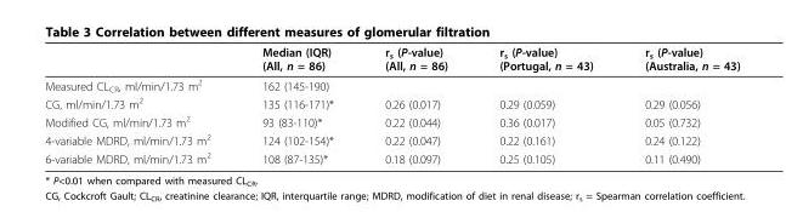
<table><thead><tr><td></td><td>Median (IQR) (All, n = 86)</td><td>r<sub>s</sub> (P-value) (All, n = 86)</td><td>r<sub>s</sub> (P-value) (Portugal, n = 43)</td><td>r<sub>s</sub> (P-value) (Australia, n = 43)</td></tr></thead><tbody><tr><td>Measured CL<sub>CR</sub>, ml/min/1.73 m<sup>2</sup></td><td>162 (145-190)</td><td></td><td></td><td></td></tr><tr><td>CG, ml/min/1.73 m<sup>2</sup></td><td>135 (116-171)*</td><td>0.26 (0.017)</td><td>0.29 (0.059)</td><td>0.29 (0.056)</td></tr><tr><td>Modified CG, ml/min/1.73 m<sup>2</sup></td><td>93 (83-110)*</td><td>0.22 (0.044)</td><td>0.36 (0.017)</td><td>0.05 (0.732)</td></tr><tr><td>4-variable MDRD, ml/min/1.73 m<sup>2</sup></td><td>124 (102-154)*</td><td>0.22 (0.047)</td><td>0.22 (0.161)</td><td>0.24 (0.122)</td></tr><tr><td>6-variable MDRD, ml/min/1.73 m<sup>2</sup></td><td>108 (87-135)*</td><td>0.18 (0.097)</td><td>0.25 (0.105)</td><td>0.11 (0.490)</td></tr></tbody></table>